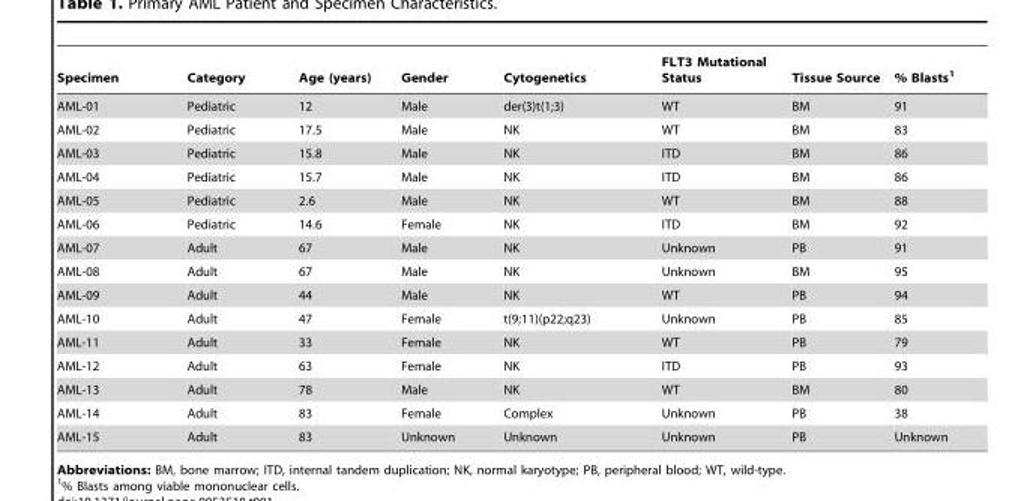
<table><thead><tr><td>Specimen</td><td>Category</td><td>Age (years)</td><td>Gender</td><td>Cytogenetics</td><td>FLT3 Mutational Status</td><td>Tissue Source</td><td>% Blasts<sup>1</sup></td></tr></thead><tbody><tr><td>AML-01</td><td>Pediatric</td><td>12</td><td>Male</td><td>der(3)t(1;3)</td><td>WT</td><td>BM</td><td>91</td></tr><tr><td>AML-02</td><td>Pediatric</td><td>17.5</td><td>Male</td><td>NK</td><td>WT</td><td>BM</td><td>83</td></tr><tr><td>AML-03</td><td>Pediatric</td><td>15.8</td><td>Male</td><td>NK</td><td>ITD</td><td>BM</td><td>86</td></tr><tr><td>AML-04</td><td>Pediatric</td><td>15.7</td><td>Male</td><td>NK</td><td>ITD</td><td>BM</td><td>86</td></tr><tr><td>AML-05</td><td>Pediatric</td><td>2.6</td><td>Male</td><td>NK</td><td>WT</td><td>BM</td><td>88</td></tr><tr><td>AML-06</td><td>Pediatric</td><td>14.6</td><td>Female</td><td>NK</td><td>ITD</td><td>BM</td><td>92</td></tr><tr><td>AML-07</td><td>Adult</td><td>67</td><td>Male</td><td>NK</td><td>Unknown</td><td>PB</td><td>91</td></tr><tr><td>AML-08</td><td>Adult</td><td>67</td><td>Male</td><td>NK</td><td>Unknown</td><td>BM</td><td>95</td></tr><tr><td>AML-09</td><td>Adult</td><td>44</td><td>Male</td><td>NK</td><td>WT</td><td>PB</td><td>94</td></tr><tr><td>AML-10</td><td>Adult</td><td>47</td><td>Female</td><td>t(9;11)(p22;q23)</td><td>Unknown</td><td>PB</td><td>85</td></tr><tr><td>AML-11</td><td>Adult</td><td>33</td><td>Female</td><td>NK</td><td>WT</td><td>PB</td><td>79</td></tr><tr><td>AML-12</td><td>Adult</td><td>63</td><td>Female</td><td>NK</td><td>ITD</td><td>PB</td><td>93</td></tr><tr><td>AML-13</td><td>Adult</td><td>78</td><td>Male</td><td>NK</td><td>WT</td><td>BM</td><td>80</td></tr><tr><td>AML-14</td><td>Adult</td><td>83</td><td>Female</td><td>Complex</td><td>Unknown</td><td>PB</td><td>38</td></tr><tr><td>AML-15</td><td>Adult</td><td>83</td><td>Unknown</td><td>Unknown</td><td>Unknown</td><td>PB</td><td>Unknown</td></tr></tbody></table>